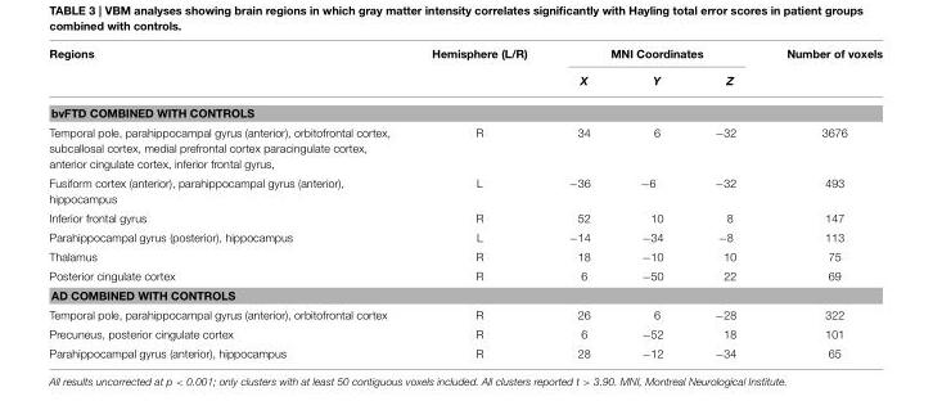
<table><thead><tr><td rowspan="2">Regions</td><td rowspan="2">Hemisphere (L/R)</td><td colspan="3">MNI Coordinates</td><td rowspan="2">Number of voxels</td></tr><tr><td>X</td><td>Y</td><td>Z</td></tr></thead><tbody><tr><td colspan="6">bvFTD COMBINED WITH CONTROLS</td></tr><tr><td>Temporal pole, parahippocampal gyrus (anterior), orbitofrontal cortex, subcallosal cortex, medial prefrontal cortex paracingulate cortex, anterior cingulate cortex, inferior frontal gyrus,</td><td>R</td><td>34</td><td>6</td><td>−32</td><td>3676</td></tr><tr><td>Fusiform cortex (anterior), parahippocampal gyrus (anterior), hippocampus</td><td>L</td><td>−36</td><td>−6</td><td>−32</td><td>493</td></tr><tr><td>Inferior frontal gyrus</td><td>R</td><td>52</td><td>10</td><td>8</td><td>147</td></tr><tr><td>Parahippocampal gyrus (posterior), hippocampus</td><td>L</td><td>−14</td><td>−34</td><td>−8</td><td>113</td></tr><tr><td>Thalamus</td><td>R</td><td>18</td><td>−10</td><td>10</td><td>75</td></tr><tr><td>Posterior cingulate cortex</td><td>R</td><td>6</td><td>−50</td><td>22</td><td>69</td></tr><tr><td colspan="6">AD COMBINED WITH CONTROLS</td></tr><tr><td>Temporal pole, parahippocampal gyrus (anterior), orbitofrontal cortex</td><td>R</td><td>26</td><td>6</td><td>−28</td><td>322</td></tr><tr><td>Precuneus, posterior cingulate cortex</td><td>R</td><td>6</td><td>−52</td><td>18</td><td>101</td></tr><tr><td>Parahippocampal gyrus (anterior), hippocampus</td><td>R</td><td>28</td><td>−12</td><td>−34</td><td>65</td></tr></tbody></table>